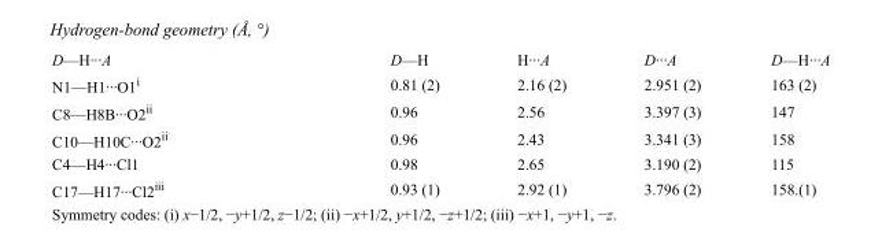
<table><tbody><tr><td>D—H···A</td><td>D—H</td><td>H···A</td><td>D···A</td><td>D—H···A</td></tr><tr><td>N1—H1···O1<sup>i</sup></td><td>0.81 (2)</td><td>2.16 (2)</td><td>2.951 (2)</td><td>163 (2)</td></tr><tr><td>C8—H8B···O2<sup>ii</sup></td><td>0.96</td><td>2.56</td><td>3.397 (3)</td><td>147</td></tr><tr><td>C10—H10C···O2<sup>ii</sup></td><td>0.96</td><td>2.43</td><td>3.341 (3)</td><td>158</td></tr><tr><td>C4—H4···Cl1</td><td>0.98</td><td>2.65</td><td>3.190 (2)</td><td>115</td></tr><tr><td>C17—H17···Cl2<sup>iii</sup></td><td>0.93 (1)</td><td>2.92 (1)</td><td>3.796 (2)</td><td>158.(1)</td></tr></tbody></table>